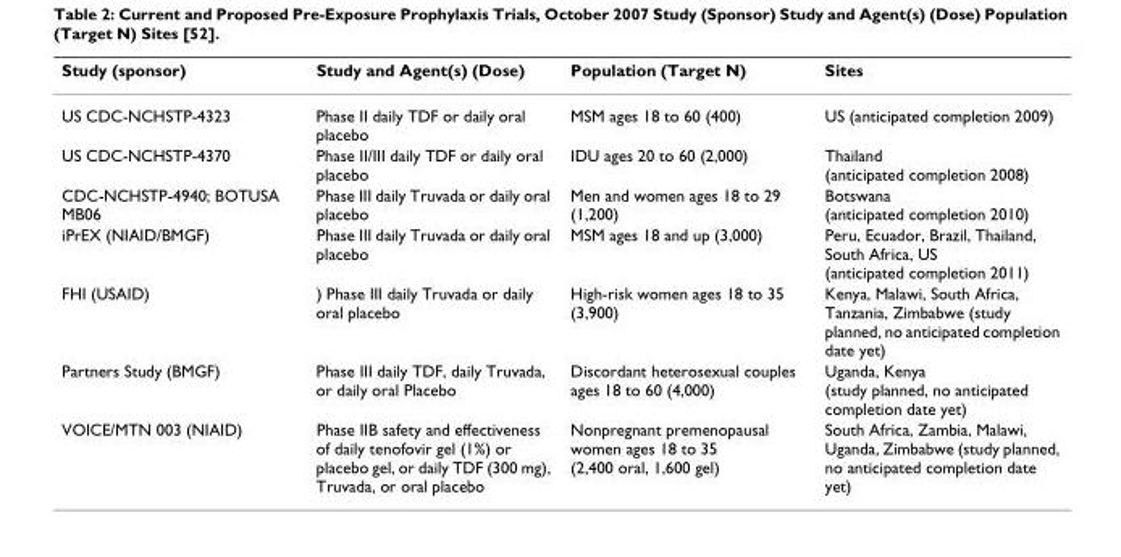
<table><thead><tr><td>Study (sponsor)</td><td>Study and Agent(s) (Dose)</td><td>Population (Target N)</td><td>Sites</td></tr></thead><tbody><tr><td>US CDC-NCHSTP-4323</td><td>Phase II daily TDF or daily oral placebo</td><td>MSM ages 18 to 60 (400)</td><td>US (anticipated completion 2009)</td></tr><tr><td>US CDC-NCHSTP-4370</td><td>Phase II/III daily TDF or daily oral placebo</td><td>IDU ages 20 to 60 (2,000)</td><td>Thailand (anticipated completion 2008)</td></tr><tr><td>CDC-NCHSTP-4940; BOTUSA MB06</td><td>Phase III daily Truvada or daily oral placebo</td><td>Men and women ages 18 to 29 (1,200)</td><td>Botswana (anticipated completion 2010)</td></tr><tr><td>iPrEX (NIAID/BMGF)</td><td>Phase III daily Truvada or daily oral placebo</td><td>MSM ages 18 and up (3,000)</td><td>Peru, Ecuador, Brazil, Thailand, South Africa, US (anticipated completion 2011)</td></tr><tr><td>FHI (USAID)</td><td>) Phase III daily Truvada or daily oral placebo</td><td>High-risk women ages 18 to 35 (3,900)</td><td>Kenya, Malawi, South Africa, Tanzania, Zimbabwe (study planned, no anticipated completion date yet)</td></tr><tr><td>Partners Study (BMGF)</td><td>Phase III daily TDF, daily Truvada, or daily oral Placebo</td><td>Discordant heterosexual couples ages 18 to 60 (4,000)</td><td>Uganda, Kenya (study planned, no anticipated completion date yet)</td></tr><tr><td>VOICE/MTN 003 (NIAID)</td><td>Phase IIB safety and effectiveness of daily tenofovir gel (1%) or placebo gel, or daily TDF (300 mg), Truvada, or oral placebo</td><td>Nonpregnant premenopausal women ages 18 to 35 (2,400 oral, 1,600 gel)</td><td>South Africa, Zambia, Malawi, Uganda, Zimbabwe (study planned, no anticipated completion date yet)</td></tr></tbody></table>